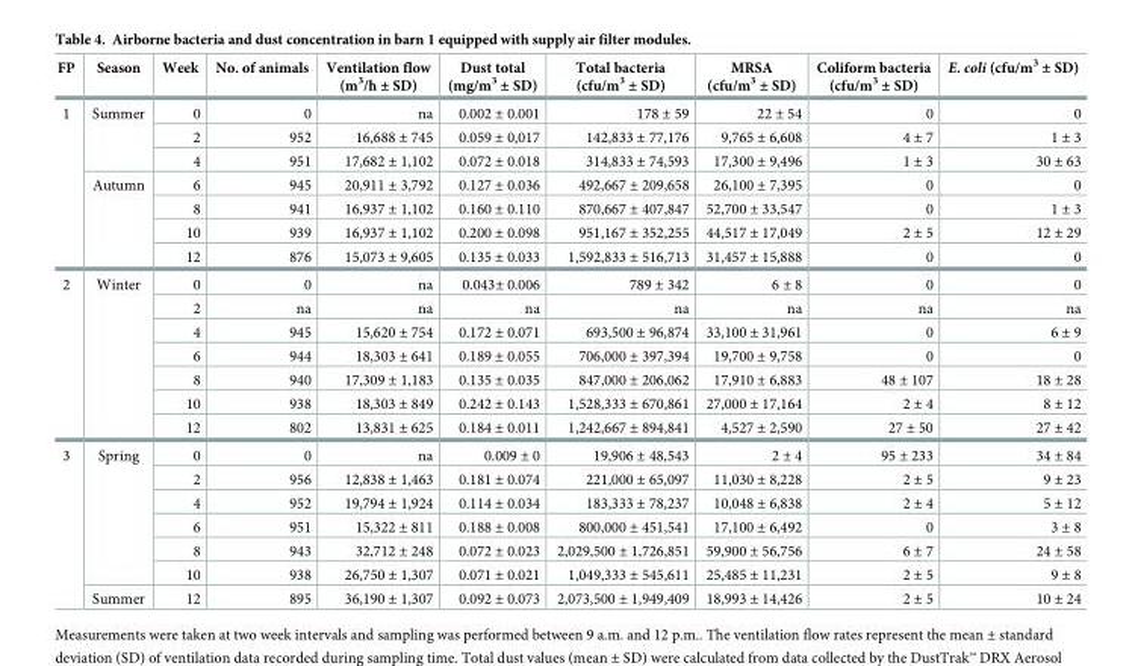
<table><thead><tr><td>FP</td><td>Season</td><td>Week</td><td>No. of animals</td><td>Ventilation flow (m<sup>3</sup>/h ± SD)</td><td>Dust total (mg/m<sup>3</sup> ± SD)</td><td>Total bacteria (cfu/m<sup>3</sup> ± SD)</td><td>MRSA (cfu/m<sup>3</sup> ± SD)</td><td>Coliform bacteria (cfu/m<sup>3</sup> ± SD)</td><td>E. coli (cfu/m<sup>3</sup> ± SD)</td></tr></thead><tbody><tr><td rowspan="7">1</td><td rowspan="3">Summer</td><td>0</td><td>0</td><td>na</td><td>0.002 ± 0.001</td><td>178 ± 59</td><td>22 ± 54</td><td>0</td><td>0</td></tr><tr><td>2</td><td>952</td><td>16,688 ± 745</td><td>0.059 ± 0,017</td><td>142,833 ± 77,176</td><td>9,765 ± 6,608</td><td>4 ± 7</td><td>1 ± 3</td></tr><tr><td>4</td><td>951</td><td>17,682 ± 1,102</td><td>0.072 ± 0.018</td><td>314,833 ± 74,593</td><td>17,300 ± 9,496</td><td>1 ± 3</td><td>30 ± 63</td></tr><tr><td rowspan="4">Autumn</td><td>6</td><td>945</td><td>20,911 ± 3,792</td><td>0.127 ± 0.036</td><td>492,667 ± 209,658</td><td>26,100 ± 7,395</td><td>0</td><td>0</td></tr><tr><td>8</td><td>941</td><td>16,937 ± 1,102</td><td>0.160 ± 0.110</td><td>870,667 ± 407,847</td><td>52,700 ± 33,547</td><td>0</td><td>1 ± 3</td></tr><tr><td>10</td><td>939</td><td>16,937 ± 1,102</td><td>0.200 ± 0.098</td><td>951,167 ± 352,255</td><td>44,517 ± 17,049</td><td>2 ± 5</td><td>12 ± 29</td></tr><tr><td>12</td><td>876</td><td>15,073 ± 9,605</td><td>0.135 ± 0.033</td><td>1,592,833 ± 516,713</td><td>31,457 ± 15,888</td><td>0</td><td>0</td></tr><tr><td rowspan="7">2</td><td rowspan="7">Winter</td><td>0</td><td>0</td><td>na</td><td>0.043± 0.006</td><td>789 ± 342</td><td>6 ± 8</td><td>0</td><td>0</td></tr><tr><td>2</td><td>na</td><td>na</td><td>na</td><td>na</td><td>na</td><td>na</td><td>na</td></tr><tr><td>4</td><td>945</td><td>15,620 ± 754</td><td>0.172 ± 0.071</td><td>693,500 ± 96,874</td><td>33,100 ± 31,961</td><td>0</td><td>6 ± 9</td></tr><tr><td>6</td><td>944</td><td>18,303 ± 641</td><td>0.189 ± 0.055</td><td>706,000 ± 397,394</td><td>19,700 ± 9,758</td><td>0</td><td>0</td></tr><tr><td>8</td><td>940</td><td>17,309 ± 1,183</td><td>0.135 ± 0.035</td><td>847,000 ± 206,062</td><td>17,910 ± 6,883</td><td>48 ± 107</td><td>18 ± 28</td></tr><tr><td>10</td><td>938</td><td>18,303 ± 849</td><td>0.242 ± 0.143</td><td>1,528,333 ± 670,861</td><td>27,000 ± 17,164</td><td>2 ± 4</td><td>8 ± 12</td></tr><tr><td>12</td><td>802</td><td>13,831 ± 625</td><td>0.184 ± 0.011</td><td>1,242,667 ± 894,841</td><td>4,527 ± 2,590</td><td>27 ± 50</td><td>27 ± 42</td></tr><tr><td rowspan="7">3</td><td rowspan="6">Spring</td><td>0</td><td>0</td><td>na</td><td>0.009 ± 0</td><td>19,906 ± 48,543</td><td>2 ± 4</td><td>95 ± 233</td><td>34 ± 84</td></tr><tr><td>2</td><td>956</td><td>12,838 ± 1,463</td><td>0.181 ± 0.074</td><td>221,000 ± 65,097</td><td>11,030 ± 8,228</td><td>2 ± 5</td><td>9 ± 23</td></tr><tr><td>4</td><td>952</td><td>19,794 ± 1,924</td><td>0.114 ± 0.034</td><td>183,333 ± 78,237</td><td>10,048 ± 6,838</td><td>2 ± 4</td><td>5 ± 12</td></tr><tr><td>6</td><td>951</td><td>15,322 ± 811</td><td>0.188 ± 0.008</td><td>800,000 ± 451,541</td><td>17,100 ± 6,492</td><td>0</td><td>3 ± 8</td></tr><tr><td>8</td><td>943</td><td>32,712 ± 248</td><td>0.072 ± 0.023</td><td>2,029,500 ± 1,726,851</td><td>59,900 ± 56,756</td><td>6 ± 7</td><td>24 ± 58</td></tr><tr><td>10</td><td>938</td><td>26,750 ± 1,307</td><td>0.071 ± 0.021</td><td>1,049,333 ± 545,611</td><td>25,485 ± 11,231</td><td>2 ± 5</td><td>9 ± 8</td></tr><tr><td>Summer</td><td>12</td><td>895</td><td>36,190 ± 1,307</td><td>0.092 ± 0.073</td><td>2,073,500 ± 1,949,409</td><td>18,993 ± 14,426</td><td>2 ± 5</td><td>10 ± 24</td></tr></tbody></table>